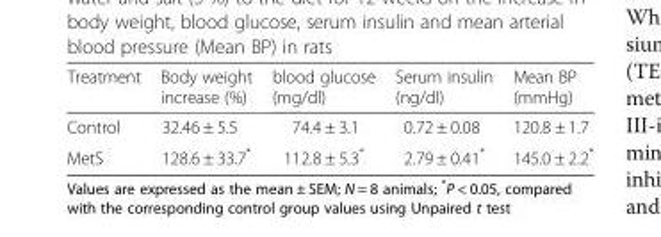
<table><thead><tr><td>Treatment</td><td>Body weight increase (%)</td><td>blood glucose (mg/dl)</td><td>Serum insulin (ng/dl)</td><td>Mean BP (mmHg)</td></tr></thead><tbody><tr><td>Control</td><td>32.46 ± 5.5</td><td>74.4 ± 3.1</td><td>0.72 ± 0.08</td><td>120.8 ± 1.7</td></tr><tr><td>MetS</td><td>128.6 ± 33.7*</td><td>112.8 ± 5.3*</td><td>2.79 ± 0.41*</td><td>145.0 ± 2.2*</td></tr></tbody></table>